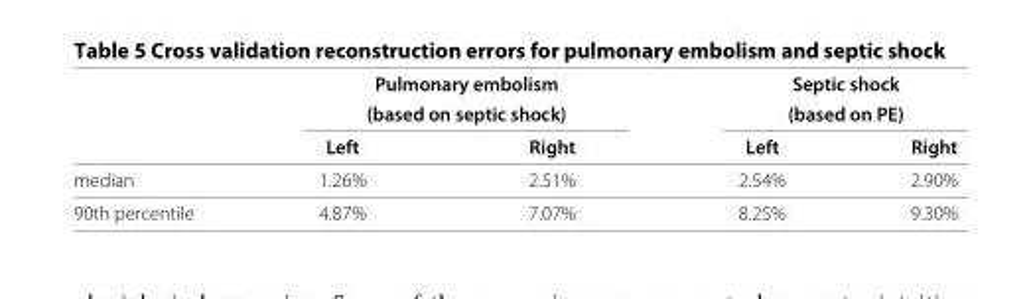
<table><thead><tr><td rowspan="3"></td><td rowspan="2" colspan="2">Pulmonary embolism (based on septic shock)</td><td rowspan="2" colspan="2">Septic shock (based on PE)</td></tr><tr></tr><tr><td>Left</td><td>Right</td><td>Left</td><td>Right</td></tr></thead><tbody><tr><td>median</td><td>1.26%</td><td>2.51%</td><td>2.54%</td><td>2.90%</td></tr><tr><td>90th percentile</td><td>4.87%</td><td>7.07%</td><td>8.25%</td><td>9.30%</td></tr></tbody></table>